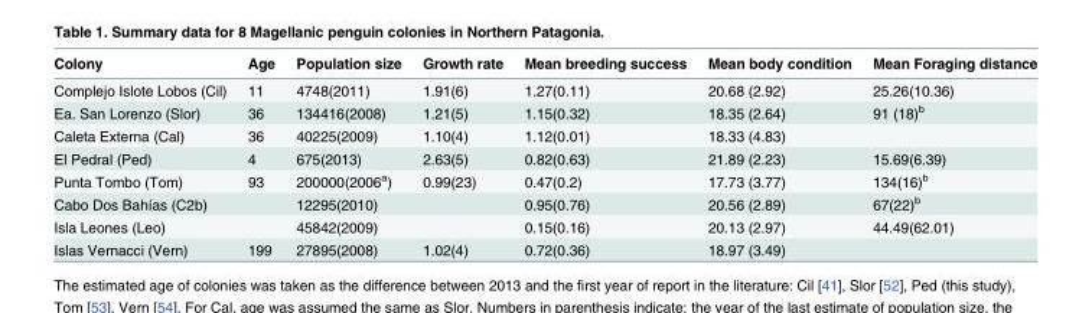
<table><thead><tr><td>Colony</td><td>Age</td><td>Population size</td><td>Growth rate</td><td>Mean breeding success</td><td>Mean body condition</td><td>Mean Foraging distance</td></tr></thead><tbody><tr><td>Complejo Islote Lobos (Cil)</td><td>11</td><td>4748(2011)</td><td>1.91(6)</td><td>1.27(0.11)</td><td>20.68 (2.92)</td><td>25.26(10.36)</td></tr><tr><td>Ea. San Lorenzo (Slor)</td><td>36</td><td>134416(2008)</td><td>1.21(5)</td><td>1.15(0.32)</td><td>18.35 (2.64)</td><td>91 (18)<sup>b</sup></td></tr><tr><td>Caleta Externa (Cal)</td><td>36</td><td>40225(2009)</td><td>1.10(4)</td><td>1.12(0.01)</td><td>18.33 (4.83)</td><td></td></tr><tr><td>El Pedral (Ped)</td><td>4</td><td>675(2013)</td><td>2.63(5)</td><td>0.82(0.63)</td><td>21.89 (2.23)</td><td>15.69(6.39)</td></tr><tr><td>Punta Tombo (Tom)</td><td>93</td><td>200000(2006<sup>a</sup>)</td><td>0.99(23)</td><td>0.47(0.2)</td><td>17.73 (3.77)</td><td>134(16)<sup>b</sup></td></tr><tr><td>Cabo Dos Bahías (C2b)</td><td></td><td>12295(2010)</td><td></td><td>0.95(0.76)</td><td>20.56 (2.89)</td><td>67(22)<sup>b</sup></td></tr><tr><td>Isla Leones (Leo)</td><td></td><td>45842(2009)</td><td></td><td>0.15(0.16)</td><td>20.13 (2.97)</td><td>44.49(62.01)</td></tr><tr><td>Islas Vernacci (Vern)</td><td>199</td><td>27895(2008)</td><td>1.02(4)</td><td>0.72(0.36)</td><td>18.97 (3.49)</td><td></td></tr></tbody></table>